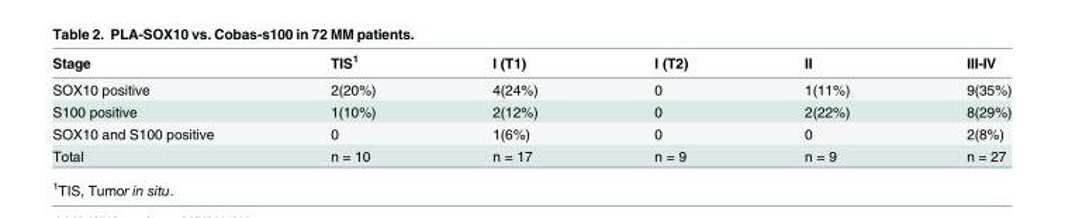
<table><thead><tr><td>Stage</td><td>TIS<sup>1</sup></td><td>I (T1)</td><td>I (T2)</td><td>II</td><td>III-IV</td></tr></thead><tbody><tr><td>SOX10 positive</td><td>2(20%)</td><td>4(24%)</td><td>0</td><td>1(11%)</td><td>9(35%)</td></tr><tr><td>S100 positive</td><td>1(10%)</td><td>2(12%)</td><td>0</td><td>2(22%)</td><td>8(29%)</td></tr><tr><td>SOX10 and S100 positive</td><td>0</td><td>1(6%)</td><td>0</td><td>0</td><td>2(8%)</td></tr><tr><td>Total</td><td>n = 10</td><td>n = 17</td><td>n = 9</td><td>n = 9</td><td>n = 27</td></tr></tbody></table>